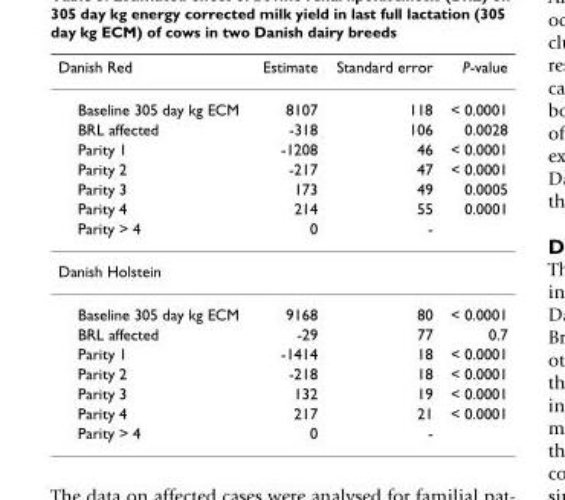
<table><thead><tr><td>Danish Red</td><td>Estimate</td><td>Standard error</td><td>P-value</td></tr></thead><tbody><tr><td>Baseline 305 day kg ECM</td><td>8107</td><td>118</td><td>&lt; 0.0001</td></tr><tr><td>BRL affected</td><td>-318</td><td>106</td><td>0.0028</td></tr><tr><td>Parity 1</td><td>-1208</td><td>46</td><td>&lt; 0.0001</td></tr><tr><td>Parity 2</td><td>-217</td><td>47</td><td>&lt; 0.0001</td></tr><tr><td>Parity 3</td><td>173</td><td>49</td><td>0.0005</td></tr><tr><td>Parity 4</td><td>214</td><td>55</td><td>0.0001</td></tr><tr><td>Parity &gt; 4</td><td>0</td><td>-</td><td></td></tr><tr><td colspan="4">Danish Holstein</td></tr><tr><td>Baseline 305 day kg ECM</td><td>9168</td><td>80</td><td>&lt; 0.0001</td></tr><tr><td>BRL affected</td><td>-29</td><td>77</td><td>0.7</td></tr><tr><td>Parity 1</td><td>-1414</td><td>18</td><td>&lt; 0.0001</td></tr><tr><td>Parity 2</td><td>-218</td><td>18</td><td>&lt; 0.0001</td></tr><tr><td>Parity 3</td><td>132</td><td>19</td><td>&lt; 0.0001</td></tr><tr><td>Parity 4</td><td>217</td><td>21</td><td>&lt; 0.0001</td></tr><tr><td>Parity &gt; 4</td><td>0</td><td>-</td><td></td></tr></tbody></table>